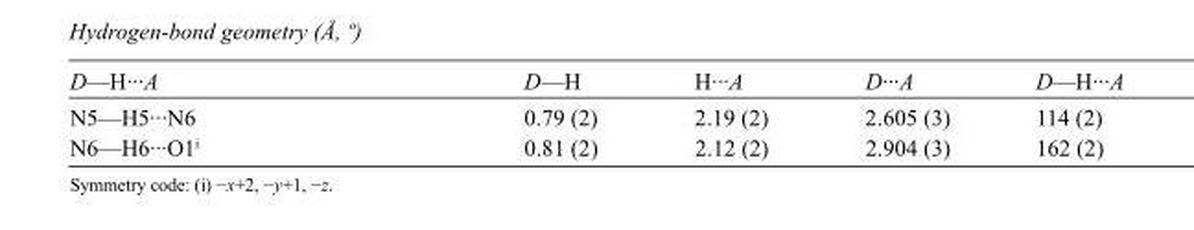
<table><tbody><tr><td>D—H···A</td><td>D—H</td><td>H···A</td><td>D···A</td><td>D—H···A</td></tr><tr><td>N5—H5···N6</td><td>0.79 (2)</td><td>2.19 (2)</td><td>2.605 (3)</td><td>114 (2)</td></tr><tr><td>N6—H6···O1<sup>i</sup></td><td>0.81 (2)</td><td>2.12 (2)</td><td>2.904 (3)</td><td>162 (2)</td></tr></tbody></table>